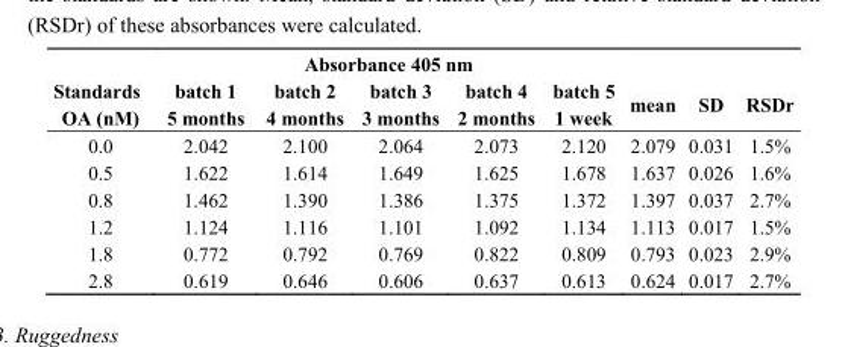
<table><thead><tr><td rowspan="3">Standards OA (nM)</td><td colspan="5">Absorbance 405 nm</td><td rowspan="3">mean</td><td rowspan="3">SD</td><td rowspan="3">RSDr</td></tr><tr><td rowspan="2">batch 1 5 months</td><td rowspan="2">batch 2 4 months</td><td rowspan="2">batch 3 3 months</td><td rowspan="2">batch 4 2 months</td><td rowspan="2">batch 5 1 week</td></tr><tr></tr></thead><tbody><tr><td>0.0</td><td>2.042</td><td>2.100</td><td>2.064</td><td>2.073</td><td>2.120</td><td>2.079</td><td>0.031</td><td>1.5%</td></tr><tr><td>0.5</td><td>1.622</td><td>1.614</td><td>1.649</td><td>1.625</td><td>1.678</td><td>1.637</td><td>0.026</td><td>1.6%</td></tr><tr><td>0.8</td><td>1.462</td><td>1.390</td><td>1.386</td><td>1.375</td><td>1.372</td><td>1.397</td><td>0.037</td><td>2.7%</td></tr><tr><td>1.2</td><td>1.124</td><td>1.116</td><td>1.101</td><td>1.092</td><td>1.134</td><td>1.113</td><td>0.017</td><td>1.5%</td></tr><tr><td>1.8</td><td>0.772</td><td>0.792</td><td>0.769</td><td>0.822</td><td>0.809</td><td>0.793</td><td>0.023</td><td>2.9%</td></tr><tr><td>2.8</td><td>0.619</td><td>0.646</td><td>0.606</td><td>0.637</td><td>0.613</td><td>0.624</td><td>0.017</td><td>2.7%</td></tr></tbody></table>